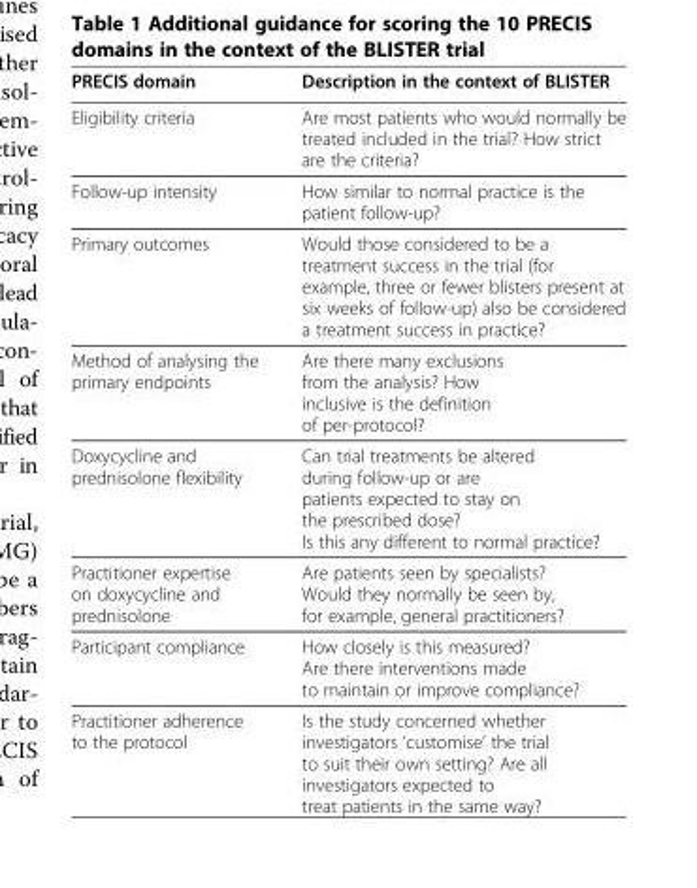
<table><thead><tr><td>PRECIS domain</td><td>Description in the context of BLISTER</td></tr></thead><tbody><tr><td>Eligibility criteria</td><td>Are most patients who would normally be treated included in the trial? How strict are the criteria?</td></tr><tr><td>Follow-up intensity</td><td>How similar to normal practice is the patient follow-up?</td></tr><tr><td>Primary outcomes</td><td>Would those considered to be a treatment success in the trial (for example, three or fewer blisters present at six weeks of follow-up) also be considered a treatment success in practice?</td></tr><tr><td>Method of analysing the primary endpoints</td><td>Are there many exclusions from the analysis? How inclusive is the definition of per-protocol?</td></tr><tr><td>Doxycycline and prednisolone flexibility</td><td>Can trial treatments be altered during follow-up or are patients expected to stay on the prescribed dose? Is this any different to normal practice?</td></tr><tr><td>Practitioner expertise on doxycycline and prednisolone</td><td>Are patients seen by specialists? Would they normally be seen by, for example, general practitioners?</td></tr><tr><td>Participant compliance</td><td>How closely is this measured? Are there interventions made to maintain or improve compliance?</td></tr><tr><td>Practitioner adherence to the protocol</td><td>Is the study concerned whether investigators ‘customise’ the trial to suit their own setting? Are all investigators expected to treat patients in the same way?</td></tr></tbody></table>